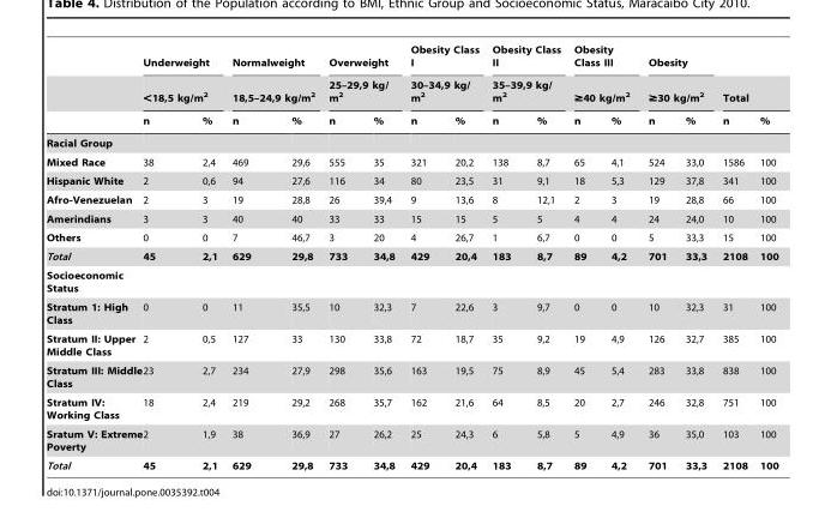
<table><thead><tr><td rowspan="3"></td><td rowspan="2" colspan="2">Underweight &lt;18,5 kg/m<sup>2</sup></td><td rowspan="2" colspan="2">Normalweight 18,5–24,9 kg/m<sup>2</sup></td><td rowspan="2" colspan="2">Overweight 25–29,9 kg/ m<sup>2</sup></td><td rowspan="2" colspan="2">Obesity Class I 30–34,9 kg/ m<sup>2</sup></td><td rowspan="2" colspan="2">Obesity Class II 35–39,9 kg/ m<sup>2</sup></td><td rowspan="2" colspan="2">Obesity Class III ≥40 kg/m<sup>2</sup></td><td rowspan="2" colspan="2">Obesity ≥30 kg/m<sup>2</sup></td><td></td><td></td></tr><tr><td colspan="2">Total</td></tr><tr><td>n</td><td>%</td><td>n</td><td>%</td><td>n</td><td>%</td><td>n</td><td>%</td><td>n</td><td>%</td><td>n</td><td>%</td><td>n</td><td>%</td><td>n</td><td>%</td></tr></thead><tbody><tr><td colspan="17">Racial Group</td></tr><tr><td>Mixed Race</td><td>38</td><td>2,4</td><td>469</td><td>29,6</td><td>555</td><td>35</td><td>321</td><td>20,2</td><td>138</td><td>8,7</td><td>65</td><td>4,1</td><td>524</td><td>33,0</td><td>1586</td><td>100</td></tr><tr><td>Hispanic White</td><td>2</td><td>0,6</td><td>94</td><td>27,6</td><td>116</td><td>34</td><td>80</td><td>23,5</td><td>31</td><td>9,1</td><td>18</td><td>5,3</td><td>129</td><td>37,8</td><td>341</td><td>100</td></tr><tr><td>Afro-Venezuelan</td><td>2</td><td>3</td><td>19</td><td>28,8</td><td>26</td><td>39,4</td><td>9</td><td>13,6</td><td>8</td><td>12,1</td><td>2</td><td>3</td><td>19</td><td>28,8</td><td>66</td><td>100</td></tr><tr><td>Amerindians</td><td>3</td><td>3</td><td>40</td><td>40</td><td>33</td><td>33</td><td>15</td><td>15</td><td>5</td><td>5</td><td>4</td><td>4</td><td>24</td><td>24,0</td><td>10</td><td>100</td></tr><tr><td>Others</td><td>0</td><td>0</td><td>7</td><td>46,7</td><td>3</td><td>20</td><td>4</td><td>26,7</td><td>1</td><td>6,7</td><td>0</td><td>0</td><td>5</td><td>33,3</td><td>15</td><td>100</td></tr><tr><td>Total</td><td>45</td><td>2,1</td><td>629</td><td>29,8</td><td>733</td><td>34,8</td><td>429</td><td>20,4</td><td>183</td><td>8,7</td><td>89</td><td>4,2</td><td>701</td><td>33,3</td><td>2108</td><td>100</td></tr><tr><td colspan="17">Socioeconomic Status</td></tr><tr><td>Stratum 1: High Class</td><td>0</td><td>0</td><td>11</td><td>35,5</td><td>10</td><td>32,3</td><td>7</td><td>22,6</td><td>3</td><td>9,7</td><td>0</td><td>0</td><td>10</td><td>32,3</td><td>31</td><td>100</td></tr><tr><td>Stratum II: Upper Middle Class</td><td>2</td><td>0,5</td><td>127</td><td>33</td><td>130</td><td>33,8</td><td>72</td><td>18,7</td><td>35</td><td>9,2</td><td>19</td><td>4,9</td><td>126</td><td>32,7</td><td>385</td><td>100</td></tr><tr><td>Stratum III: Middle Class</td><td>23</td><td>2,7</td><td>234</td><td>27,9</td><td>298</td><td>35,6</td><td>163</td><td>19,5</td><td>75</td><td>8,9</td><td>45</td><td>5,4</td><td>283</td><td>33,8</td><td>838</td><td>100</td></tr><tr><td>Stratum IV: Working Class</td><td>18</td><td>2,4</td><td>219</td><td>29,2</td><td>268</td><td>35,7</td><td>162</td><td>21,6</td><td>64</td><td>8,5</td><td>20</td><td>2,7</td><td>246</td><td>32,8</td><td>751</td><td>100</td></tr><tr><td>Sratum V: Extreme Poverty</td><td>2</td><td>1,9</td><td>38</td><td>36,9</td><td>27</td><td>26,2</td><td>25</td><td>24,3</td><td>6</td><td>5,8</td><td>5</td><td>4,9</td><td>36</td><td>35,0</td><td>103</td><td>100</td></tr><tr><td>Total</td><td>45</td><td>2,1</td><td>629</td><td>29,8</td><td>733</td><td>34,8</td><td>429</td><td>20,4</td><td>183</td><td>8,7</td><td>89</td><td>4,2</td><td>701</td><td>33,3</td><td>2108</td><td>100</td></tr></tbody></table>